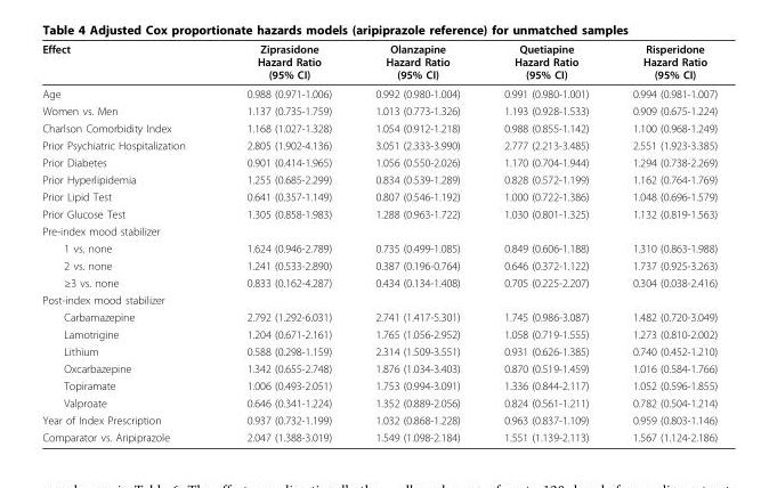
<table><thead><tr><td>Effect</td><td>Ziprasidone Hazard Ratio (95% CI)</td><td>Olanzapine Hazard Ratio (95% CI)</td><td>Quetiapine Hazard Ratio (95% CI)</td><td>Risperidone Hazard Ratio (95% CI)</td></tr></thead><tbody><tr><td>Age</td><td>0.988 (0.971-1.006)</td><td>0.992 (0.980-1.004)</td><td>0.991 (0.980-1.001)</td><td>0.994 (0.981-1.007)</td></tr><tr><td>Women vs. Men</td><td>1.137 (0.735-1.759)</td><td>1.013 (0.773-1.326)</td><td>1.193 (0.928-1.533)</td><td>0.909 (0.675-1.224)</td></tr><tr><td>Charlson Comorbidity Index</td><td>1.168 (1.027-1.328)</td><td>1.054 (0.912-1.218)</td><td>0.988 (0.855-1.142)</td><td>1.100 (0.968-1.249)</td></tr><tr><td>Prior Psychiatric Hospitalization</td><td>2.805 (1.902-4.136)</td><td>3.051 (2.333-3.990)</td><td>2.777 (2.213-3.485)</td><td>2.551 (1.923-3.385)</td></tr><tr><td>Prior Diabetes</td><td>0.901 (0.414-1.965)</td><td>1.056 (0.550-2.026)</td><td>1.170 (0.704-1.944)</td><td>1.294 (0.738-2.269)</td></tr><tr><td>Prior Hyperlipidemia</td><td>1.255 (0.685-2.299)</td><td>0.834 (0.539-1.289)</td><td>0.828 (0.572-1.199)</td><td>1.162 (0.764-1.769)</td></tr><tr><td>Prior Lipid Test</td><td>0.641 (0.357-1.149)</td><td>0.807 (0.546-1.192)</td><td>1.000 (0.722-1.386)</td><td>1.048 (0.696-1.579)</td></tr><tr><td>Prior Glucose Test</td><td>1.305 (0.858-1.983)</td><td>1.288 (0.963-1.722)</td><td>1.030 (0.801-1.325)</td><td>1.132 (0.819-1.563)</td></tr><tr><td colspan="5">Pre-index mood stabilizer</td></tr><tr><td>1 vs. none</td><td>1.624 (0.946-2.789)</td><td>0.735 (0.499-1.085)</td><td>0.849 (0.606-1.188)</td><td>1.310 (0.863-1.988)</td></tr><tr><td>2 vs. none</td><td>1.241 (0.533-2.890)</td><td>0.387 (0.196-0.764)</td><td>0.646 (0.372-1.122)</td><td>1.737 (0.925-3.263)</td></tr><tr><td>≥3 vs. none</td><td>0.833 (0.162-4.287)</td><td>0.434 (0.134-1.408)</td><td>0.705 (0.225-2.207)</td><td>0.304 (0.038-2.416)</td></tr><tr><td colspan="5">Post-index mood stabilizer</td></tr><tr><td>Carbamazepine</td><td>2.792 (1.292-6.031)</td><td>2.741 (1.417-5.301)</td><td>1.745 (0.986-3.087)</td><td>1.482 (0.720-3.049)</td></tr><tr><td>Lamotrigine</td><td>1.204 (0.671-2.161)</td><td>1.765 (1.056-2.952)</td><td>1.058 (0.719-1.555)</td><td>1.273 (0.810-2.002)</td></tr><tr><td>Lithium</td><td>0.588 (0.298-1.159)</td><td>2.314 (1.509-3.551)</td><td>0.931 (0.626-1.385)</td><td>0.740 (0.452-1.210)</td></tr><tr><td>Oxcarbazepine</td><td>1.342 (0.655-2.748)</td><td>1.876 (1.034-3.403)</td><td>0.870 (0.519-1.459)</td><td>1.016 (0.584-1.766)</td></tr><tr><td>Topiramate</td><td>1.006 (0.493-2.051)</td><td>1.753 (0.994-3.091)</td><td>1.336 (0.844-2.117)</td><td>1.052 (0.596-1.855)</td></tr><tr><td>Valproate</td><td>0.646 (0.341-1.224)</td><td>1.352 (0.889-2.056)</td><td>0.824 (0.561-1.211)</td><td>0.782 (0.504-1.214)</td></tr><tr><td>Year of Index Prescription</td><td>0.937 (0.732-1.199)</td><td>1.032 (0.868-1.228)</td><td>0.963 (0.837-1.109)</td><td>0.959 (0.803-1.146)</td></tr><tr><td>Comparator vs. Aripiprazole</td><td>2.047 (1.388-3.019)</td><td>1.549 (1.098-2.184)</td><td>1.551 (1.139-2.113)</td><td>1.567 (1.124-2.186)</td></tr></tbody></table>